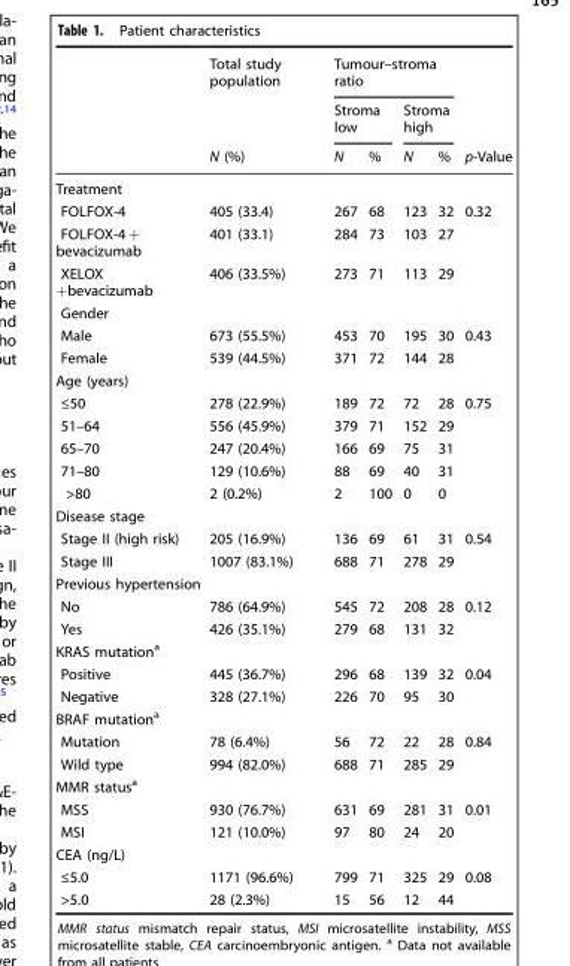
<table><thead><tr><td rowspan="3"></td><td rowspan="3">Total study population N (%)</td><td colspan="4">Tumour–stroma ratio</td><td rowspan="3">p-Value</td></tr><tr><td colspan="2">Stroma low</td><td colspan="2">Stroma high</td></tr><tr><td>N</td><td>%</td><td>N</td><td>%</td></tr></thead><tbody><tr><td colspan="7">Treatment</td></tr><tr><td>FOLFOX-4</td><td>405 (33.4)</td><td>267</td><td>68</td><td>123</td><td>32</td><td>0.32</td></tr><tr><td>FOLFOX-4 + bevacizumab</td><td>401 (33.1)</td><td>284</td><td>73</td><td>103</td><td>27</td><td></td></tr><tr><td>XELOX +bevacizumab</td><td>406 (33.5%)</td><td>273</td><td>71</td><td>113</td><td>29</td><td></td></tr><tr><td colspan="7">Gender</td></tr><tr><td>Male</td><td>673 (55.5%)</td><td>453</td><td>70</td><td>195</td><td>30</td><td>0.43</td></tr><tr><td>Female</td><td>539 (44.5%)</td><td>371</td><td>72</td><td>144</td><td>28</td><td></td></tr><tr><td colspan="7">Age (years)</td></tr><tr><td>≤50</td><td>278 (22.9%)</td><td>189</td><td>72</td><td>72</td><td>28</td><td>0.75</td></tr><tr><td>51–64</td><td>556 (45.9%)</td><td>379</td><td>71</td><td>152</td><td>29</td><td></td></tr><tr><td>65–70</td><td>247 (20.4%)</td><td>166</td><td>69</td><td>75</td><td>31</td><td></td></tr><tr><td>71–80</td><td>129 (10.6%)</td><td>88</td><td>69</td><td>40</td><td>31</td><td></td></tr><tr><td>&gt;80</td><td>2 (0.2%)</td><td>2</td><td>100</td><td>0</td><td>0</td><td></td></tr><tr><td colspan="7">Disease stage</td></tr><tr><td>Stage II (high risk)</td><td>205 (16.9%)</td><td>136</td><td>69</td><td>61</td><td>31</td><td>0.54</td></tr><tr><td>Stage III</td><td>1007 (83.1%)</td><td>688</td><td>71</td><td>278</td><td>29</td><td></td></tr><tr><td colspan="7">Previous hypertension</td></tr><tr><td>No</td><td>786 (64.9%)</td><td>545</td><td>72</td><td>208</td><td>28</td><td>0.12</td></tr><tr><td>Yes</td><td>426 (35.1%)</td><td>279</td><td>68</td><td>131</td><td>32</td><td></td></tr><tr><td colspan="7">KRAS mutation<sup>a</sup></td></tr><tr><td>Positive</td><td>445 (36.7%)</td><td>296</td><td>68</td><td>139</td><td>32</td><td>0.04</td></tr><tr><td>Negative</td><td>328 (27.1%)</td><td>226</td><td>70</td><td>95</td><td>30</td><td></td></tr><tr><td colspan="7">BRAF mutation<sup>a</sup></td></tr><tr><td>Mutation</td><td>78 (6.4%)</td><td>56</td><td>72</td><td>22</td><td>28</td><td>0.84</td></tr><tr><td>Wild type</td><td>994 (82.0%)</td><td>688</td><td>71</td><td>285</td><td>29</td><td></td></tr><tr><td colspan="7">MMR status<sup>a</sup></td></tr><tr><td>MSS</td><td>930 (76.7%)</td><td>631</td><td>69</td><td>281</td><td>31</td><td>0.01</td></tr><tr><td>MSI</td><td>121 (10.0%)</td><td>97</td><td>80</td><td>24</td><td>20</td><td></td></tr><tr><td colspan="7">CEA (ng/L)</td></tr><tr><td>≤5.0</td><td>1171 (96.6%)</td><td>799</td><td>71</td><td>325</td><td>29</td><td>0.08</td></tr><tr><td>&gt;5.0</td><td>28 (2.3%)</td><td>15</td><td>56</td><td>12</td><td>44</td><td></td></tr></tbody></table>